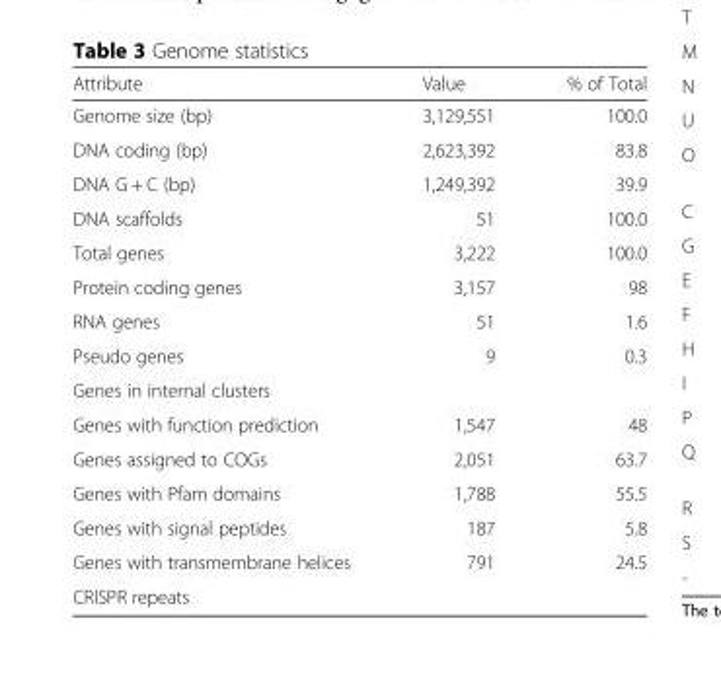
<table><thead><tr><td>Attribute</td><td>Value</td><td>% of Total</td></tr></thead><tbody><tr><td>Genome size (bp)</td><td>3,129,551</td><td>100.0</td></tr><tr><td>DNA coding (bp)</td><td>2,623,392</td><td>83.8</td></tr><tr><td>DNA G + C (bp)</td><td>1,249,392</td><td>39.9</td></tr><tr><td>DNA scaffolds</td><td>51</td><td>100.0</td></tr><tr><td>Total genes</td><td>3,222</td><td>100.0</td></tr><tr><td>Protein coding genes</td><td>3,157</td><td>98</td></tr><tr><td>RNA genes</td><td>51</td><td>1.6</td></tr><tr><td>Pseudo genes</td><td>9</td><td>0.3</td></tr><tr><td colspan="3">Genes in internal clusters</td></tr><tr><td>Genes with function prediction</td><td>1,547</td><td>48</td></tr><tr><td>Genes assigned to COGs</td><td>2,051</td><td>63.7</td></tr><tr><td>Genes with Pfam domains</td><td>1,788</td><td>55.5</td></tr><tr><td>Genes with signal peptides</td><td>187</td><td>5.8</td></tr><tr><td>Genes with transmembrane helices</td><td>791</td><td>24.5</td></tr><tr><td>CRISPR repeats</td><td></td><td></td></tr></tbody></table>